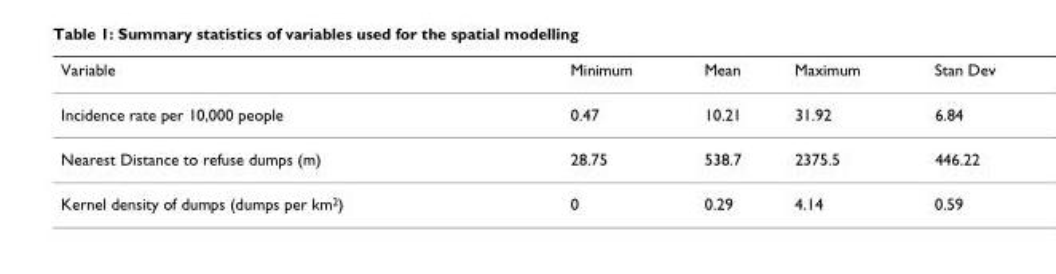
<table><thead><tr><td>Variable</td><td>Minimum</td><td>Mean</td><td>Maximum</td><td>Stan Dev</td></tr></thead><tbody><tr><td>Incidence rate per 10,000 people</td><td>0.47</td><td>10.21</td><td>31.92</td><td>6.84</td></tr><tr><td>Nearest Distance to refuse dumps (m)</td><td>28.75</td><td>538.7</td><td>2375.5</td><td>446.22</td></tr><tr><td>Kernel density of dumps (dumps per km<sup>2</sup>)</td><td>0</td><td>0.29</td><td>4.14</td><td>0.59</td></tr></tbody></table>